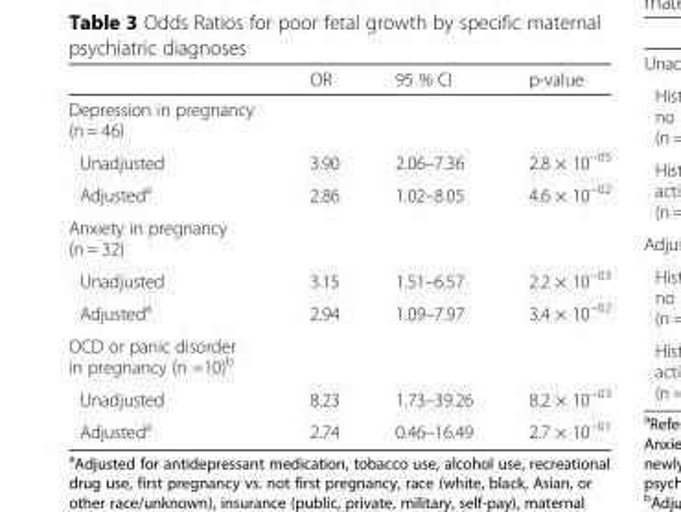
<table><thead><tr><td></td><td>OR</td><td>95 % CI</td><td>p-value</td></tr></thead><tbody><tr><td colspan="4">Depression in pregnancy (n = 46)</td></tr><tr><td>Unadjusted</td><td>3.90</td><td>2.06–7.36</td><td>2.8 × 10<sup>−05</sup></td></tr><tr><td>Adjusted<sup>a</sup></td><td>2.86</td><td>1.02–8.05</td><td>4.6 × 10<sup>−02</sup></td></tr><tr><td colspan="4">Anxiety in pregnancy (n = 32)</td></tr><tr><td>Unadjusted</td><td>3.15</td><td>1.51–6.57</td><td>2.2 × 10<sup>−03</sup></td></tr><tr><td>Adjusted<sup>a</sup></td><td>2.94</td><td>1.09–7.97</td><td>3.4 × 10<sup>−02</sup></td></tr><tr><td colspan="4">OCD or panic disorder in pregnancy (n =10)<sup>b</sup></td></tr><tr><td>Unadjusted</td><td>8.23</td><td>1.73–39.26</td><td>8.2 × 10<sup>−03</sup></td></tr><tr><td>Adjusted<sup>a</sup></td><td>2.74</td><td>0.46–16.49</td><td>2.7 × 10<sup>−01</sup></td></tr></tbody></table>